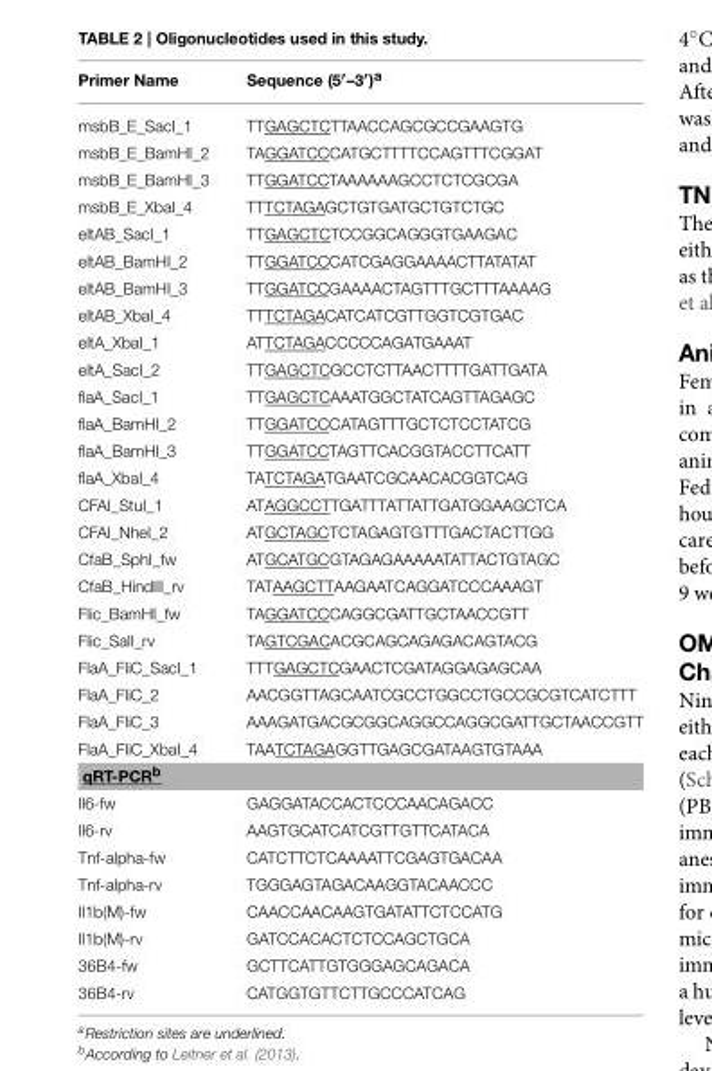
<table><thead><tr><td>Primer Name</td><td>Sequence (5<sup>′</sup>–3<sup>′</sup>)<sup>a</sup></td></tr></thead><tbody><tr><td>msbB_E_SacI_1</td><td>TTGAGCTCTTAACCAGCGCCGAAGTG</td></tr><tr><td>msbB_E_BamHI_2</td><td>TAGGATCCCATGCTTTTCCAGTTTCGGAT</td></tr><tr><td>msbB_E_BamHI_3</td><td>TTGGATCCTAAAAAAGCCTCTCGCGA</td></tr><tr><td>msbB_E_XbaI_4</td><td>TTTCTAGAGCTGTGATGCTGTCTGC</td></tr><tr><td>eltAB_SacI_1</td><td>TTGAGCTCTCCGGCAGGGTGAAGAC</td></tr><tr><td>eltAB_BamHI_2</td><td>TTGGATCCCATCGAGGAAAACTTATATAT</td></tr><tr><td>eltAB_BamHI_3</td><td>TTGGATCCGAAAACTAGTTTGCTTTAAAAG</td></tr><tr><td>eltAB_XbaI_4</td><td>TTTCTAGACATCATCGTTGGTCGTGAC</td></tr><tr><td>eltA_XbaI_1</td><td>ATTCTAGACCCCCAGATGAAAT</td></tr><tr><td>eltA_SacI_2</td><td>TTGAGCTCGCCTCTTAACTTTTGATTGATA</td></tr><tr><td>flaA_SacI_1</td><td>TTGAGCTCAAATGGCTATCAGTTAGAGC</td></tr><tr><td>flaA_BamHI_2</td><td>TTGGATCCCATAGTTTGCTCTCCTATCG</td></tr><tr><td>flaA_BamHI_3</td><td>TTGGATCCTAGTTCACGGTACCTTCATT</td></tr><tr><td>flaA_XbaI_4</td><td>TATCTAGATGAATCGCAACACGGTCAG</td></tr><tr><td>CFAI_StuI_1</td><td>ATAGGCCTTGATTTATTATTGATGGAAGCTCA</td></tr><tr><td>CFAI_NheI_2</td><td>ATGCTAGCTCTAGAGTGTTTGACTACTTGG</td></tr><tr><td>CfaB_SphI_fw</td><td>ATGCATGCGTAGAGAAAAATATTACTGTAGC</td></tr><tr><td>CfaB_HindIII_rv</td><td>TATAAGCTTAAGAATCAGGATCCCAAAGT</td></tr><tr><td>Flic_BamHI_fw</td><td>TAGGATCCCAGGCGATTGCTAACCGTT</td></tr><tr><td>Flic_SalI_rv</td><td>TAGTCGACACGCAGCAGAGACAGTACG</td></tr><tr><td>FlaA_FliC_SacI_1</td><td>TTTGAGCTCGAACTCGATAGGAGAGCAA</td></tr><tr><td>FlaA_FliC_2</td><td>AACGGTTAGCAATCGCCTGGCCTGCCGCGTCATCTTT</td></tr><tr><td>FlaA_FliC_3</td><td>AAAGATGACGCGGCAGGCCAGGCGATTGCTAACCGTT</td></tr><tr><td>FlaA_FliC_XbaI_4</td><td>TAATCTAGAGGTTGAGCGATAAGTGTAAA</td></tr><tr><td colspan="2">qRT-PCR<sup>b</sup></td></tr><tr><td>Il6-fw</td><td>GAGGATACCACTCCCAACAGACC</td></tr><tr><td>Il6-rv</td><td>AAGTGCATCATCGTTGTTCATACA</td></tr><tr><td>Tnf-alpha-fw</td><td>CATCTTCTCAAAATTCGAGTGACAA</td></tr><tr><td>Tnf-alpha-rv</td><td>TGGGAGTAGACAAGGTACAACCC</td></tr><tr><td>Il1b(M)-fw</td><td>CAACCAACAAGTGATATTCTCCATG</td></tr><tr><td>Il1b(M)-rv</td><td>GATCCACACTCTCCAGCTGCA</td></tr><tr><td>36B4-fw</td><td>GCTTCATTGTGGGAGCAGACA</td></tr><tr><td>36B4-rv</td><td>CATGGTGTTCTTGCCCATCAG</td></tr></tbody></table>